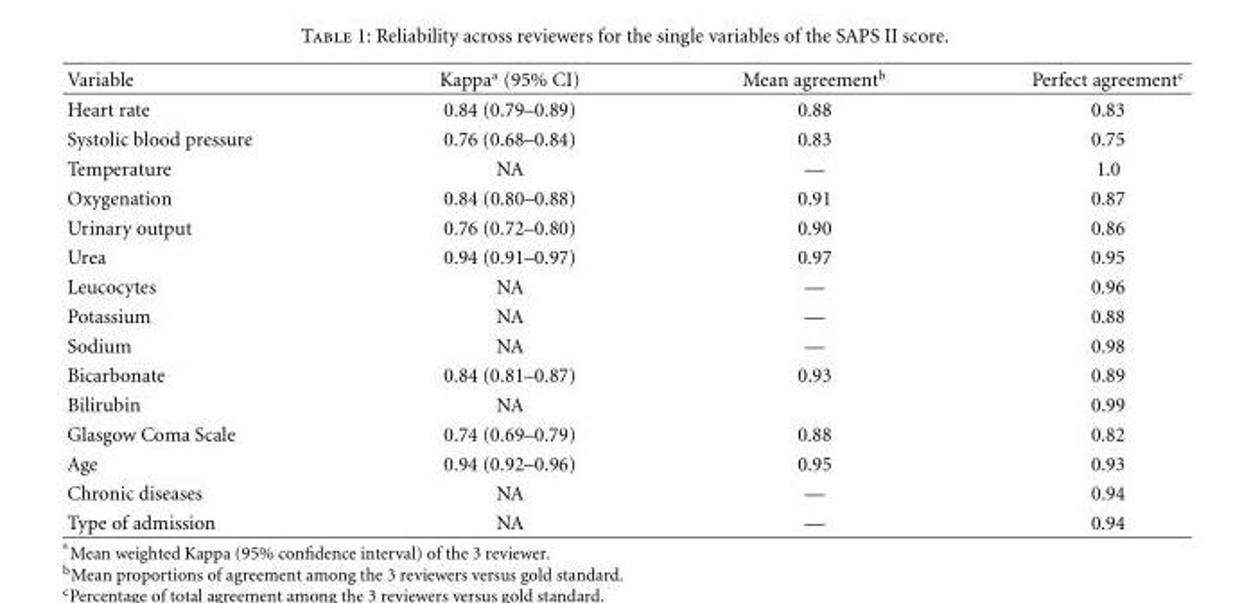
<table><thead><tr><td>Variable</td><td>Kappa<sup>a</sup> (95% CI)</td><td>Mean agreement<sup>b</sup></td><td>Perfect agreement<sup>c</sup></td></tr></thead><tbody><tr><td>Heart rate</td><td>0.84 (0.79–0.89)</td><td>0.88</td><td>0.83</td></tr><tr><td>Systolic blood pressure</td><td>0.76 (0.68–0.84)</td><td>0.83</td><td>0.75</td></tr><tr><td>Temperature</td><td>NA</td><td>—</td><td>1.0</td></tr><tr><td>Oxygenation</td><td>0.84 (0.80–0.88)</td><td>0.91</td><td>0.87</td></tr><tr><td>Urinary output</td><td>0.76 (0.72–0.80)</td><td>0.90</td><td>0.86</td></tr><tr><td>Urea</td><td>0.94 (0.91–0.97)</td><td>0.97</td><td>0.95</td></tr><tr><td>Leucocytes</td><td>NA</td><td>—</td><td>0.96</td></tr><tr><td>Potassium</td><td>NA</td><td>—</td><td>0.88</td></tr><tr><td>Sodium</td><td>NA</td><td>—</td><td>0.98</td></tr><tr><td>Bicarbonate</td><td>0.84 (0.81–0.87)</td><td>0.93</td><td>0.89</td></tr><tr><td>Bilirubin</td><td>NA</td><td></td><td>0.99</td></tr><tr><td>Glasgow Coma Scale</td><td>0.74 (0.69–0.79)</td><td>0.88</td><td>0.82</td></tr><tr><td>Age</td><td>0.94 (0.92–0.96)</td><td>0.95</td><td>0.93</td></tr><tr><td>Chronic diseases</td><td>NA</td><td>—</td><td>0.94</td></tr><tr><td>Type of admission</td><td>NA</td><td>—</td><td>0.94</td></tr></tbody></table>